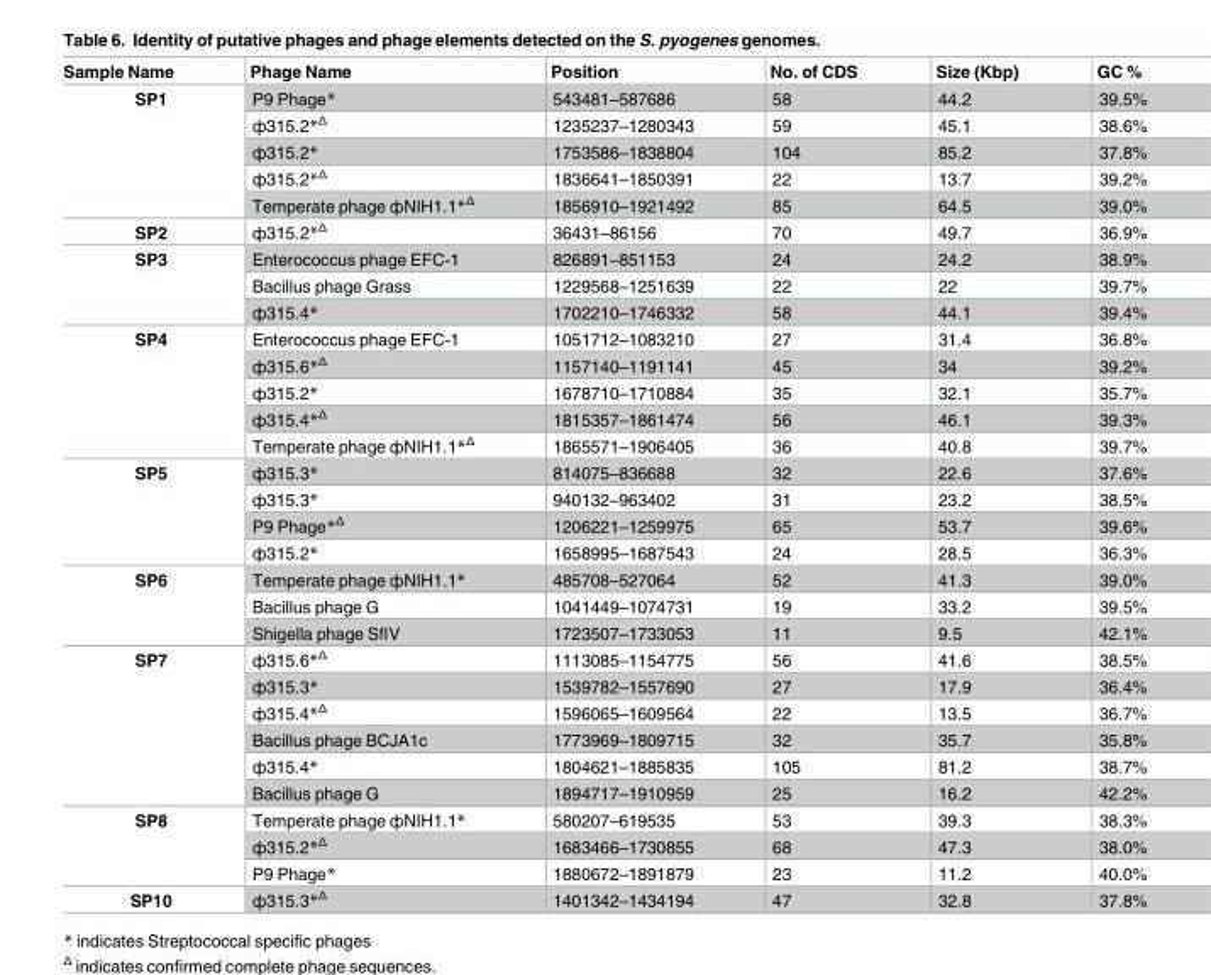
<table><thead><tr><td>Sample Name</td><td>Phage Name</td><td>Position</td><td>No. of CDS</td><td>Size (Kbp)</td><td>GC %</td></tr></thead><tbody><tr><td rowspan="5">SP1</td><td>P9 Phage*</td><td>543481–587686</td><td>58</td><td>44.2</td><td>39.5%</td></tr><tr><td>ф315.2*<sup>Δ</sup></td><td>1235237–1280343</td><td>59</td><td>45.1</td><td>38.6%</td></tr><tr><td>ф315.2*</td><td>1753586–1838804</td><td>104</td><td>85.2</td><td>37.8%</td></tr><tr><td>ф315.2*<sup>Δ</sup></td><td>1836641–1850391</td><td>22</td><td>13.7</td><td>39.2%</td></tr><tr><td>Temperate phage фNIH1.1*<sup>Δ</sup></td><td>1856910–1921492</td><td>85</td><td>64.5</td><td>39.0%</td></tr><tr><td>SP2</td><td>ф315.2*<sup>Δ</sup></td><td>36431–86156</td><td>70</td><td>49.7</td><td>36.9%</td></tr><tr><td rowspan="3">SP3</td><td>Enterococcus phage EFC-1</td><td>826891–851153</td><td>24</td><td>24.2</td><td>38.9%</td></tr><tr><td>Bacillus phage Grass</td><td>1229568–1251639</td><td>22</td><td>22</td><td>39.7%</td></tr><tr><td>ф315.4*</td><td>1702210–1746332</td><td>58</td><td>44.1</td><td>39.4%</td></tr><tr><td rowspan="5">SP4</td><td>Enterococcus phage EFC-1</td><td>1051712–1083210</td><td>27</td><td>31.4</td><td>36.8%</td></tr><tr><td>ф315.6*<sup>Δ</sup></td><td>1157140–1191141</td><td>45</td><td>34</td><td>39.2%</td></tr><tr><td>ф315.2*</td><td>1678710–1710884</td><td>35</td><td>32.1</td><td>35.7%</td></tr><tr><td>ф315.4*<sup>Δ</sup></td><td>1815357–1861474</td><td>56</td><td>46.1</td><td>39.3%</td></tr><tr><td>Temperate phage фNIH1.1*<sup>Δ</sup></td><td>1865571–1906405</td><td>36</td><td>40.8</td><td>39.7%</td></tr><tr><td rowspan="4">SP5</td><td>ф315.3*</td><td>814075–836688</td><td>32</td><td>22.6</td><td>37.6%</td></tr><tr><td>ф315.3*</td><td>940132–963402</td><td>31</td><td>23.2</td><td>38.5%</td></tr><tr><td>P9 Phage*<sup>Δ</sup></td><td>1206221–1259975</td><td>65</td><td>53.7</td><td>39.6%</td></tr><tr><td>ф315.2*</td><td>1658995–1687543</td><td>24</td><td>28.5</td><td>36.3%</td></tr><tr><td rowspan="3">SP6</td><td>Temperate phage фNIH1.1*</td><td>485708–527064</td><td>52</td><td>41.3</td><td>39.0%</td></tr><tr><td>Bacillus phage G</td><td>1041449–1074731</td><td>19</td><td>33.2</td><td>39.5%</td></tr><tr><td>Shigella phage SfIV</td><td>1723507–1733053</td><td>11</td><td>9.5</td><td>42.1%</td></tr><tr><td rowspan="6">SP7</td><td>ф315.6*<sup>Δ</sup></td><td>1113085–1154775</td><td>56</td><td>41.6</td><td>38.5%</td></tr><tr><td>ф315.3*</td><td>1539782–1557690</td><td>27</td><td>17.9</td><td>36.4%</td></tr><tr><td>ф315.4*<sup>Δ</sup></td><td>1596065–1609564</td><td>22</td><td>13.5</td><td>36.7%</td></tr><tr><td>Bacillus phage BCJA1c</td><td>1773969–1809715</td><td>32</td><td>35.7</td><td>35.8%</td></tr><tr><td>ф315.4*</td><td>1804621–1885835</td><td>105</td><td>81.2</td><td>38.7%</td></tr><tr><td>Bacillus phage G</td><td>1894717–1910959</td><td>25</td><td>16.2</td><td>42.2%</td></tr><tr><td rowspan="3">SP8</td><td>Temperate phage фNIH1.1*</td><td>580207–619535</td><td>53</td><td>39.3</td><td>38.3%</td></tr><tr><td>ф315.2*<sup>Δ</sup></td><td>1683466–1730855</td><td>68</td><td>47.3</td><td>38.0%</td></tr><tr><td>P9 Phage*</td><td>1880672–1891879</td><td>23</td><td>11.2</td><td>40.0%</td></tr><tr><td>SP10</td><td>ф315.3*<sup>Δ</sup></td><td>1401342–1434194</td><td>47</td><td>32.8</td><td>37.8%</td></tr></tbody></table>